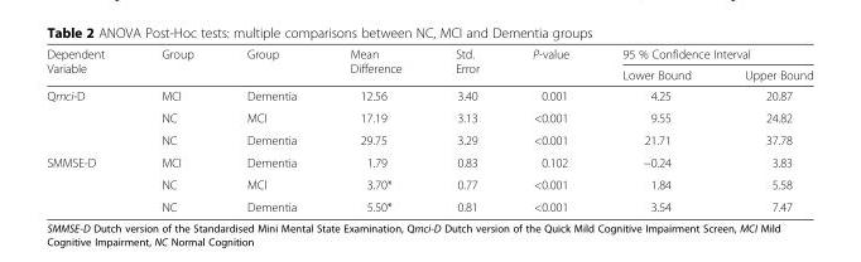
<table><thead><tr><td rowspan="2">Dependent Variable</td><td rowspan="2">Group</td><td rowspan="2">Group</td><td rowspan="2">Mean Difference</td><td rowspan="2">Std. Error</td><td rowspan="2">P-value</td><td colspan="2">95 % Confidence Interval</td></tr><tr><td>Lower Bound</td><td>Upper Bound</td></tr></thead><tbody><tr><td rowspan="3">Qmci-D</td><td>MCI</td><td>Dementia</td><td>12.56</td><td>3.40</td><td>0.001</td><td>4.25</td><td>20.87</td></tr><tr><td>NC</td><td>MCI</td><td>17.19</td><td>3.13</td><td>&lt;0.001</td><td>9.55</td><td>24.82</td></tr><tr><td>NC</td><td>Dementia</td><td>29.75</td><td>3.29</td><td>&lt;0.001</td><td>21.71</td><td>37.78</td></tr><tr><td rowspan="3">SMMSE-D</td><td>MCI</td><td>Dementia</td><td>1.79</td><td>0.83</td><td>0.102</td><td>−0.24</td><td>3.83</td></tr><tr><td>NC</td><td>MCI</td><td>3.70*</td><td>0.77</td><td>&lt;0.001</td><td>1.84</td><td>5.58</td></tr><tr><td>NC</td><td>Dementia</td><td>5.50*</td><td>0.81</td><td>&lt;0.001</td><td>3.54</td><td>7.47</td></tr></tbody></table>